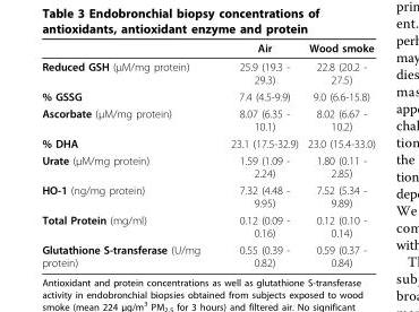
<table><thead><tr><td></td><td>Air</td><td>Wood smoke</td></tr></thead><tbody><tr><td>Reduced GSH (μM/mg protein)</td><td>25.9 (19.3 - 29.3)</td><td>22.8 (20.2 - 27.5)</td></tr><tr><td>% GSSG</td><td>7.4 (4.5-9.9)</td><td>9.0 (6.6-15.8)</td></tr><tr><td>Ascorbate (μM/mg protein)</td><td>8.07 (6.35 - 10.1)</td><td>8.02 (6.67 - 10.2)</td></tr><tr><td>% DHA</td><td>23.1 (17.5-32.9)</td><td>23.0 (15.4-33.0)</td></tr><tr><td>Urate (μM/mg protein)</td><td>1.59 (1.09 - 2.24)</td><td>1.80 (0.11 - 2.85)</td></tr><tr><td>HO-1 (ng/mg protein)</td><td>7.32 (4.48 - 9.95)</td><td>7.52 (5.34 - 9.89)</td></tr><tr><td>Total Protein (mg/ml)</td><td>0.12 (0.09 - 0.16)</td><td>0.12 (0.10 - 0.14)</td></tr><tr><td>Glutathione S-transferase (U/mg protein)</td><td>0.55 (0.39 - 0.82)</td><td>0.59 (0.37 - 0.84)</td></tr></tbody></table>